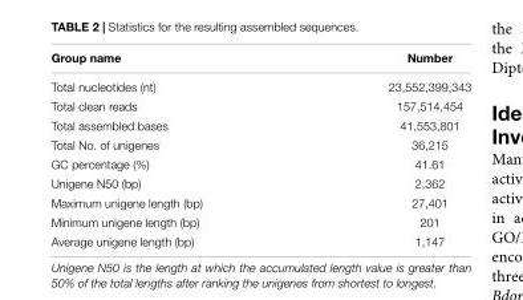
<table><thead><tr><td>Group name</td><td>Number</td></tr></thead><tbody><tr><td>Total nucleotides (nt)</td><td>23,552,399,343</td></tr><tr><td>Total clean reads</td><td>157,514,454</td></tr><tr><td>Total assembled bases</td><td>41,553,801</td></tr><tr><td>Total No. of unigenes</td><td>36,215</td></tr><tr><td>GC percentage (%)</td><td>41.61</td></tr><tr><td>Unigene N50 (bp)</td><td>2,362</td></tr><tr><td>Maximum unigene length (bp)</td><td>27,401</td></tr><tr><td>Minimum unigene length (bp)</td><td>201</td></tr><tr><td>Average unigene length (bp)</td><td>1,147</td></tr></tbody></table>